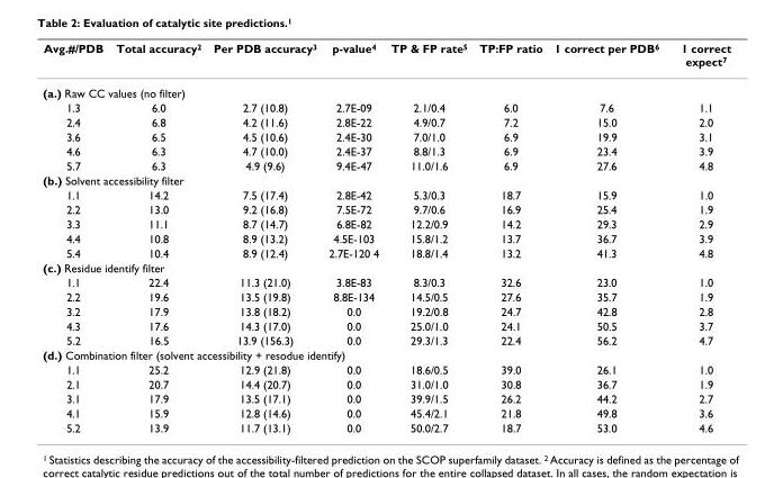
<table><thead><tr><td>Avg.#/PDB</td><td>Total accuracy<sup>2</sup></td><td>Per PDB accuracy<sup>3</sup></td><td>p-value<sup>4</sup></td><td>TP &amp; FP rate<sup>5</sup></td><td>TP:FP ratio</td><td>1 correct per PDB<sup>6</sup></td><td>1 correct expect<sup>7</sup></td></tr></thead><tbody><tr><td colspan="8">(a.) Raw CC values (no filter)</td></tr><tr><td>1.3</td><td>6.0</td><td>2.7 (10.8)</td><td>2.7E-09</td><td>2.1/0.4</td><td>6.0</td><td>7.6</td><td>1.1</td></tr><tr><td>2.4</td><td>6.8</td><td>4.2 (11.6)</td><td>2.8E-22</td><td>4.9/0.7</td><td>7.2</td><td>15.0</td><td>2.0</td></tr><tr><td>3.6</td><td>6.5</td><td>4.5 (10.6)</td><td>2.4E-30</td><td>7.0/1.0</td><td>6.9</td><td>19.9</td><td>3.1</td></tr><tr><td>4.6</td><td>6.3</td><td>4.7 (10.0)</td><td>2.4E-37</td><td>8.8/1.3</td><td>6.9</td><td>23.4</td><td>3.9</td></tr><tr><td>5.7</td><td>6.3</td><td>4.9 (9.6)</td><td>9.4E-47</td><td>11.0/1.6</td><td>6.9</td><td>27.6</td><td>4.8</td></tr><tr><td colspan="8">(b.) Solvent accessibility filter</td></tr><tr><td>1.1</td><td>14.2</td><td>7.5 (17.4)</td><td>2.8E-42</td><td>5.3/0.3</td><td>18.7</td><td>15.9</td><td>1.0</td></tr><tr><td>2.2</td><td>13.0</td><td>9.2 (16.8)</td><td>7.5E-72</td><td>9.7/0.6</td><td>16.9</td><td>25.4</td><td>1.9</td></tr><tr><td>3.3</td><td>11.1</td><td>8.7 (14.7)</td><td>6.8E-82</td><td>12.2/0.9</td><td>14.2</td><td>29.3</td><td>2.9</td></tr><tr><td>4.4</td><td>10.8</td><td>8.9 (13.2)</td><td>4.5E-103</td><td>15.8/1.2</td><td>13.7</td><td>36.7</td><td>3.9</td></tr><tr><td>5.4</td><td>10.4</td><td>8.9 (12.4)</td><td>2.7E-120 4</td><td>18.8/1.4</td><td>13.2</td><td>41.3</td><td>4.8</td></tr><tr><td colspan="8">(c.) Residue identify filter</td></tr><tr><td>1.1</td><td>22.4</td><td>11.3 (21.0)</td><td>3.8E-83</td><td>8.3/0.3</td><td>32.6</td><td>23.0</td><td>1.0</td></tr><tr><td>2.2</td><td>19.6</td><td>13.5 (19.8)</td><td>8.8E-134</td><td>14.5/0.5</td><td>27.6</td><td>35.7</td><td>1.9</td></tr><tr><td>3.2</td><td>17.9</td><td>13.8 (18.2)</td><td>0.0</td><td>19.2/0.8</td><td>24.7</td><td>42.8</td><td>2.8</td></tr><tr><td>4.3</td><td>17.6</td><td>14.3 (17.0)</td><td>0.0</td><td>25.0/1.0</td><td>24.1</td><td>50.5</td><td>3.7</td></tr><tr><td>5.2</td><td>16.5</td><td>13.9 (156.3)</td><td>0.0</td><td>29.3/1.3</td><td>22.4</td><td>56.2</td><td>4.7</td></tr><tr><td colspan="8">(d.) Combination filter (solvent accessibility + resodue identify)</td></tr><tr><td>1.1</td><td>25.2</td><td>12.9 (21.8)</td><td>0.0</td><td>18.6/0.5</td><td>39.0</td><td>26.1</td><td>1.0</td></tr><tr><td>2.1</td><td>20.7</td><td>14.4 (20.7)</td><td>0.0</td><td>31.0/1.0</td><td>30.8</td><td>36.7</td><td>1.9</td></tr><tr><td>3.1</td><td>17.9</td><td>13.5 (17.1)</td><td>0.0</td><td>39.9/1.5</td><td>26.2</td><td>44.2</td><td>2.7</td></tr><tr><td>4.1</td><td>15.9</td><td>12.8 (14.6)</td><td>0.0</td><td>45.4/2.1</td><td>21.8</td><td>49.8</td><td>3.6</td></tr><tr><td>5.2</td><td>13.9</td><td>11.7 (13.1)</td><td>0.0</td><td>50.0/2.7</td><td>18.7</td><td>53.0</td><td>4.6</td></tr></tbody></table>